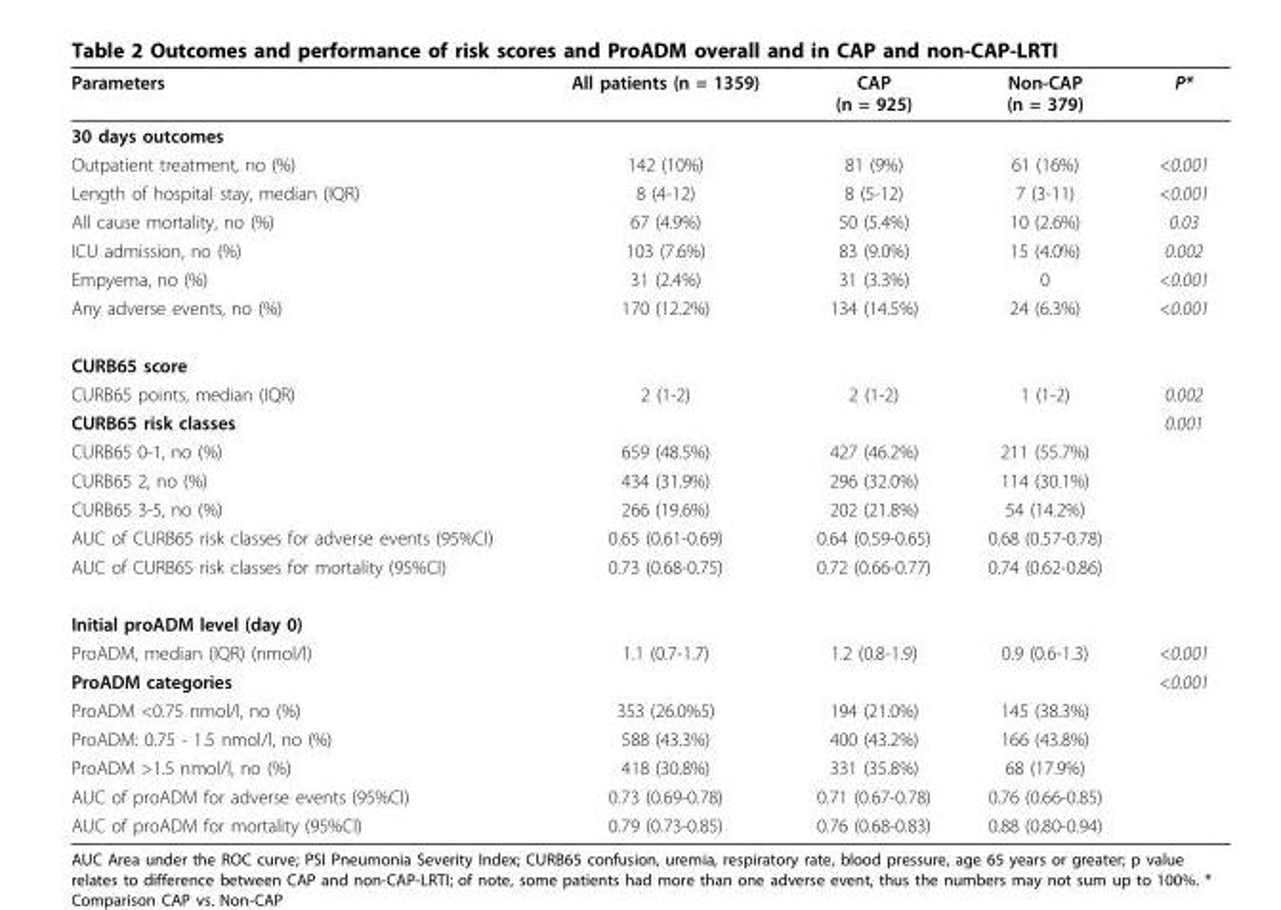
<table><thead><tr><td>Parameters</td><td>All patients (n = 1359)</td><td>CAP (n = 925)</td><td>Non-CAP (n = 379)</td><td>P*</td></tr></thead><tbody><tr><td colspan="5">30 days outcomes</td></tr><tr><td>Outpatient treatment, no (%)</td><td>142 (10%)</td><td>81 (9%)</td><td>61 (16%)</td><td>&lt;0.001</td></tr><tr><td>Length of hospital stay, median (IQR)</td><td>8 (4-12)</td><td>8 (5-12)</td><td>7 (3-11)</td><td>&lt;0.001</td></tr><tr><td>All cause mortality, no (%)</td><td>67 (4.9%)</td><td>50 (5.4%)</td><td>10 (2.6%)</td><td>0.03</td></tr><tr><td>ICU admission, no (%)</td><td>103 (7.6%)</td><td>83 (9.0%)</td><td>15 (4.0%)</td><td>0.002</td></tr><tr><td>Empyema, no (%)</td><td>31 (2.4%)</td><td>31 (3.3%)</td><td>0</td><td>&lt;0.001</td></tr><tr><td>Any adverse events, no (%)</td><td>170 (12.2%)</td><td>134 (14.5%)</td><td>24 (6.3%)</td><td>&lt;0.001</td></tr><tr><td colspan="5">CURB65 score</td></tr><tr><td>CURB65 points, median (IQR)</td><td>2 (1-2)</td><td>2 (1-2)</td><td>1 (1-2)</td><td>0.002</td></tr><tr><td>CURB65 risk classes</td><td></td><td></td><td></td><td>0.001</td></tr><tr><td>CURB65 0-1, no (%)</td><td>659 (48.5%)</td><td>427 (46.2%)</td><td>211 (55.7%)</td><td></td></tr><tr><td>CURB65 2, no (%)</td><td>434 (31.9%)</td><td>296 (32.0%)</td><td>114 (30.1%)</td><td></td></tr><tr><td>CURB65 3-5, no (%)</td><td>266 (19.6%)</td><td>202 (21.8%)</td><td>54 (14.2%)</td><td></td></tr><tr><td>AUC of CURB65 risk classes for adverse events (95%CI)</td><td>0.65 (0.61-0.69)</td><td>0.64 (0.59-0.65)</td><td>0.68 (0.57-0.78)</td><td></td></tr><tr><td>AUC of CURB65 risk classes for mortality (95%CI)</td><td>0.73 (0.68-0.75)</td><td>0.72 (0.66-0.77)</td><td>0.74 (0.62-0.86)</td><td></td></tr><tr><td colspan="5">Initial proADM level (day 0)</td></tr><tr><td>ProADM, median (IQR) (nmol/l)</td><td>1.1 (0.7-1.7)</td><td>1.2 (0.8-1.9)</td><td>0.9 (0.6-1.3)</td><td>&lt;0.001</td></tr><tr><td>ProADM categories</td><td></td><td></td><td></td><td>&lt;0.001</td></tr><tr><td>ProADM &lt;0.75 nmol/l, no (%)</td><td>353 (26.0%5)</td><td>194 (21.0%)</td><td>145 (38.3%)</td><td></td></tr><tr><td>ProADM: 0.75 - 1.5 nmol/l, no (%)</td><td>588 (43.3%)</td><td>400 (43.2%)</td><td>166 (43.8%)</td><td></td></tr><tr><td>ProADM &gt;1.5 nmol/l, no (%)</td><td>418 (30.8%)</td><td>331 (35.8%)</td><td>68 (17.9%)</td><td></td></tr><tr><td>AUC of proADM for adverse events (95%CI)</td><td>0.73 (0.69-0.78)</td><td>0.71 (0.67-0.78)</td><td>0.76 (0.66-0.85)</td><td></td></tr><tr><td>AUC of proADM for mortality (95%CI)</td><td>0.79 (0.73-0.85)</td><td>0.76 (0.68-0.83)</td><td>0.88 (0.80-0.94)</td><td></td></tr></tbody></table>